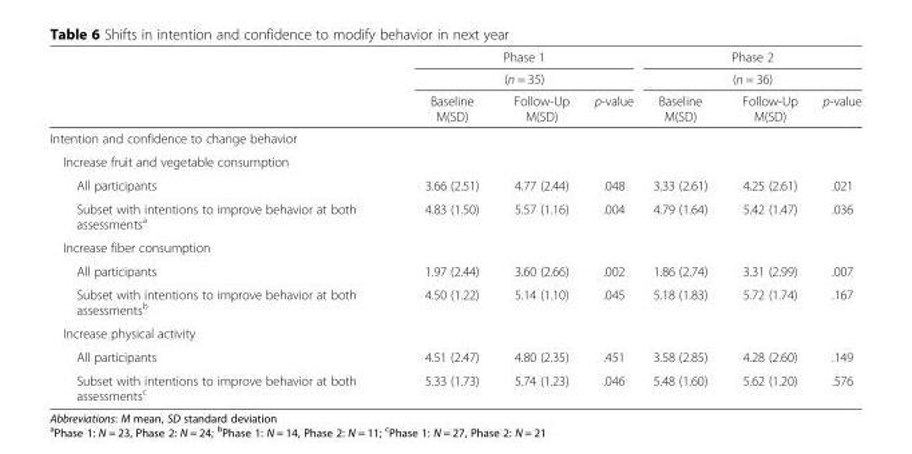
<table><thead><tr><td rowspan="3"></td><td rowspan="2" colspan="3">Phase 1 (n = 35)</td><td rowspan="2" colspan="3">Phase 2 (n = 36)</td></tr><tr></tr><tr><td>Baseline M(SD)</td><td>Follow-Up M(SD)</td><td>p-value</td><td>Baseline M(SD)</td><td>Follow-Up M(SD)</td><td>p-value</td></tr></thead><tbody><tr><td colspan="7">Intention and confidence to change behavior</td></tr><tr><td colspan="7">Increase fruit and vegetable consumption</td></tr><tr><td>All participants</td><td>3.66 (2.51)</td><td>4.77 (2.44)</td><td>.048</td><td>3.33 (2.61)</td><td>4.25 (2.61)</td><td>.021</td></tr><tr><td>Subset with intentions to improve behavior at both assessments<sup>a</sup></td><td>4.83 (1.50)</td><td>5.57 (1.16)</td><td>.004</td><td>4.79 (1.64)</td><td>5.42 (1.47)</td><td>.036</td></tr><tr><td colspan="7">Increase fiber consumption</td></tr><tr><td>All participants</td><td>1.97 (2.44)</td><td>3.60 (2.66)</td><td>.002</td><td>1.86 (2.74)</td><td>3.31 (2.99)</td><td>.007</td></tr><tr><td>Subset with intentions to improve behavior at both assessments<sup>b</sup></td><td>4.50 (1.22)</td><td>5.14 (1.10)</td><td>.045</td><td>5.18 (1.83)</td><td>5.72 (1.74)</td><td>.167</td></tr><tr><td colspan="7">Increase physical activity</td></tr><tr><td>All participants</td><td>4.51 (2.47)</td><td>4.80 (2.35)</td><td>.451</td><td>3.58 (2.85)</td><td>4.28 (2.60)</td><td>.149</td></tr><tr><td>Subset with intentions to improve behavior at both assessments<sup>c</sup></td><td>5.33 (1.73)</td><td>5.74 (1.23)</td><td>.046</td><td>5.48 (1.60)</td><td>5.62 (1.20)</td><td>.576</td></tr></tbody></table>